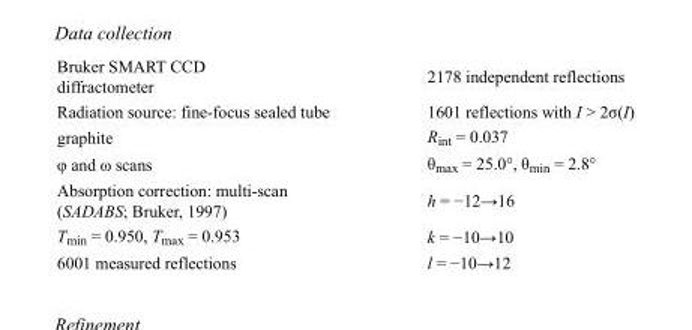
<table><tbody><tr><td>Bruker SMART CCD diffractometer</td><td>2178 independent reflections</td></tr><tr><td>Radiation source: fine-focus sealed tube</td><td>1601 reflections with I &gt; 2σ(I)</td></tr><tr><td>graphite</td><td>R<sub>int</sub> = 0.037</td></tr><tr><td>φ and ω scans</td><td>θ<sub>max</sub> = 25.0°, θ<sub>min</sub> = 2.8°</td></tr><tr><td>Absorption correction: multi-scan (SADABS; Bruker, 1997)</td><td>h = −12→16</td></tr><tr><td>T<sub>min</sub> = 0.950, T<sub>max</sub> = 0.953</td><td>k = −10→10</td></tr><tr><td>6001 measured reflections</td><td>l = −10→12</td></tr></tbody></table>